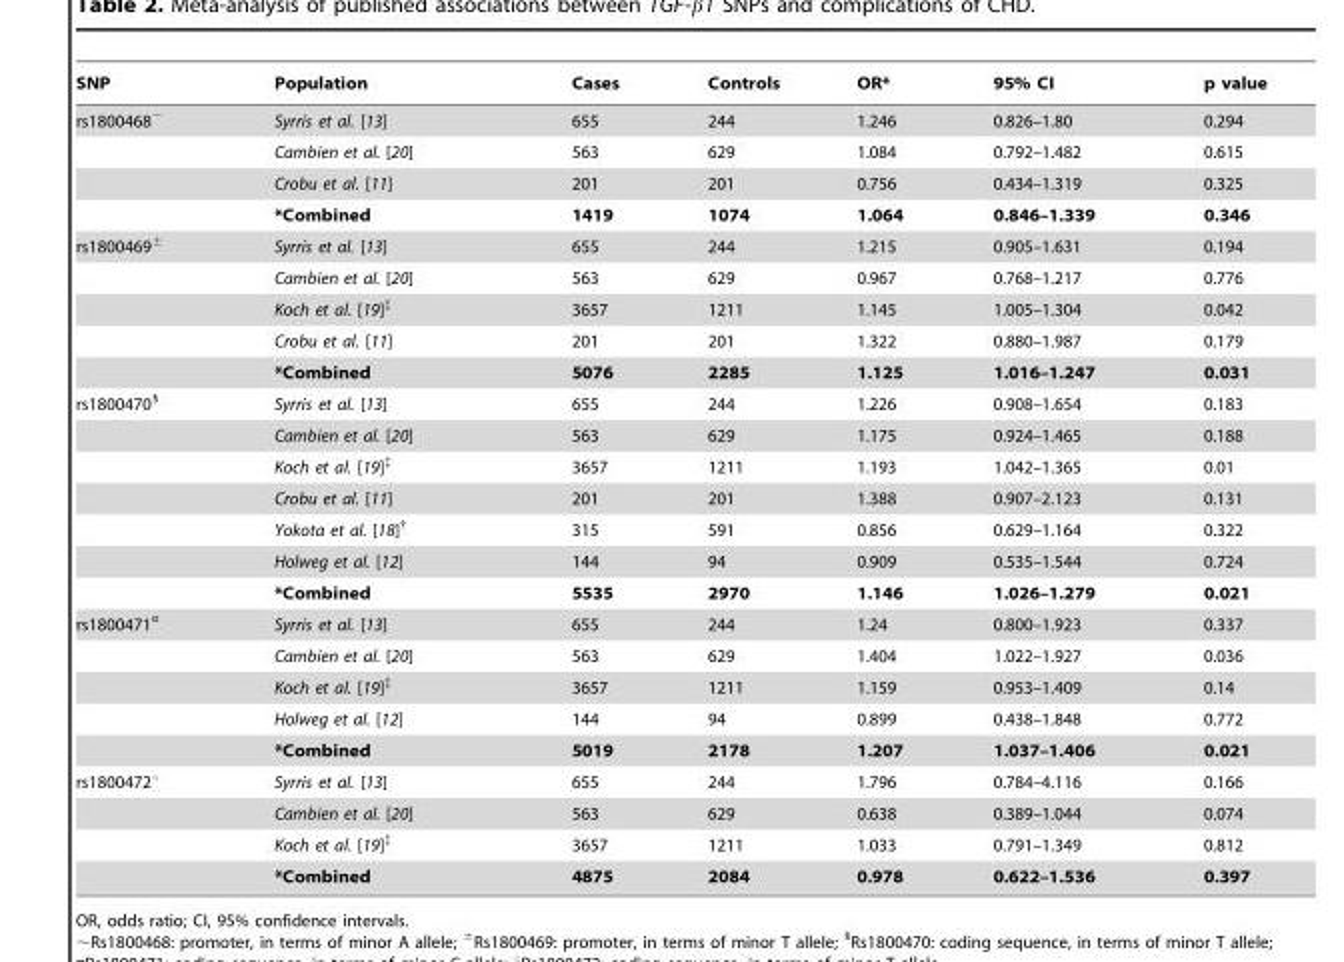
<table><thead><tr><td>SNP</td><td>Population</td><td>Cases</td><td>Controls</td><td>OR*</td><td>95% CI</td><td>p value</td></tr></thead><tbody><tr><td rowspan="4">rs1800468<sup>∼</sup></td><td>Syrris et al. [13]</td><td>655</td><td>244</td><td>1.246</td><td>0.826–1.80</td><td>0.294</td></tr><tr><td>Cambien et al. [20]</td><td>563</td><td>629</td><td>1.084</td><td>0.792–1.482</td><td>0.615</td></tr><tr><td>Crobu et al. [11]</td><td>201</td><td>201</td><td>0.756</td><td>0.434–1.319</td><td>0.325</td></tr><tr><td>*Combined</td><td>1419</td><td>1074</td><td>1.064</td><td>0.846–1.339</td><td>0.346</td></tr><tr><td rowspan="5">rs1800469<sup>±</sup></td><td>Syrris et al. [13]</td><td>655</td><td>244</td><td>1.215</td><td>0.905–1.631</td><td>0.194</td></tr><tr><td>Cambien et al. [20]</td><td>563</td><td>629</td><td>0.967</td><td>0.768–1.217</td><td>0.776</td></tr><tr><td>Koch et al. [19]‡</td><td>3657</td><td>1211</td><td>1.145</td><td>1.005–1.304</td><td>0.042</td></tr><tr><td>Crobu et al. [11]</td><td>201</td><td>201</td><td>1.322</td><td>0.880–1.987</td><td>0.179</td></tr><tr><td>*Combined</td><td>5076</td><td>2285</td><td>1.125</td><td>1.016–1.247</td><td>0.031</td></tr><tr><td rowspan="7">rs1800470<sup>§</sup></td><td>Syrris et al. [13]</td><td>655</td><td>244</td><td>1.226</td><td>0.908–1.654</td><td>0.183</td></tr><tr><td>Cambien et al. [20]</td><td>563</td><td>629</td><td>1.175</td><td>0.924–1.465</td><td>0.188</td></tr><tr><td>Koch et al. [19]‡</td><td>3657</td><td>1211</td><td>1.193</td><td>1.042–1.365</td><td>0.01</td></tr><tr><td>Crobu et al. [11]</td><td>201</td><td>201</td><td>1.388</td><td>0.907–2.123</td><td>0.131</td></tr><tr><td>Yokota et al. [18]†</td><td>315</td><td>591</td><td>0.856</td><td>0.629–1.164</td><td>0.322</td></tr><tr><td>Holweg et al. [12]</td><td>144</td><td>94</td><td>0.909</td><td>0.535–1.544</td><td>0.724</td></tr><tr><td>*Combined</td><td>5535</td><td>2970</td><td>1.146</td><td>1.026–1.279</td><td>0.021</td></tr><tr><td rowspan="5">rs1800471<sup>¤</sup></td><td>Syrris et al. [13]</td><td>655</td><td>244</td><td>1.24</td><td>0.800–1.923</td><td>0.337</td></tr><tr><td>Cambien et al. [20]</td><td>563</td><td>629</td><td>1.404</td><td>1.022–1.927</td><td>0.036</td></tr><tr><td>Koch et al. [19]‡</td><td>3657</td><td>1211</td><td>1.159</td><td>0.953–1.409</td><td>0.14</td></tr><tr><td>Holweg et al. [12]</td><td>144</td><td>94</td><td>0.899</td><td>0.438–1.848</td><td>0.772</td></tr><tr><td>*Combined</td><td>5019</td><td>2178</td><td>1.207</td><td>1.037–1.406</td><td>0.021</td></tr><tr><td rowspan="4">rs1800472°</td><td>Syrris et al. [13]</td><td>655</td><td>244</td><td>1.796</td><td>0.784–4.116</td><td>0.166</td></tr><tr><td>Cambien et al. [20]</td><td>563</td><td>629</td><td>0.638</td><td>0.389–1.044</td><td>0.074</td></tr><tr><td>Koch et al. [19]‡</td><td>3657</td><td>1211</td><td>1.033</td><td>0.791–1.349</td><td>0.812</td></tr><tr><td>*Combined</td><td>4875</td><td>2084</td><td>0.978</td><td>0.622–1.536</td><td>0.397</td></tr></tbody></table>